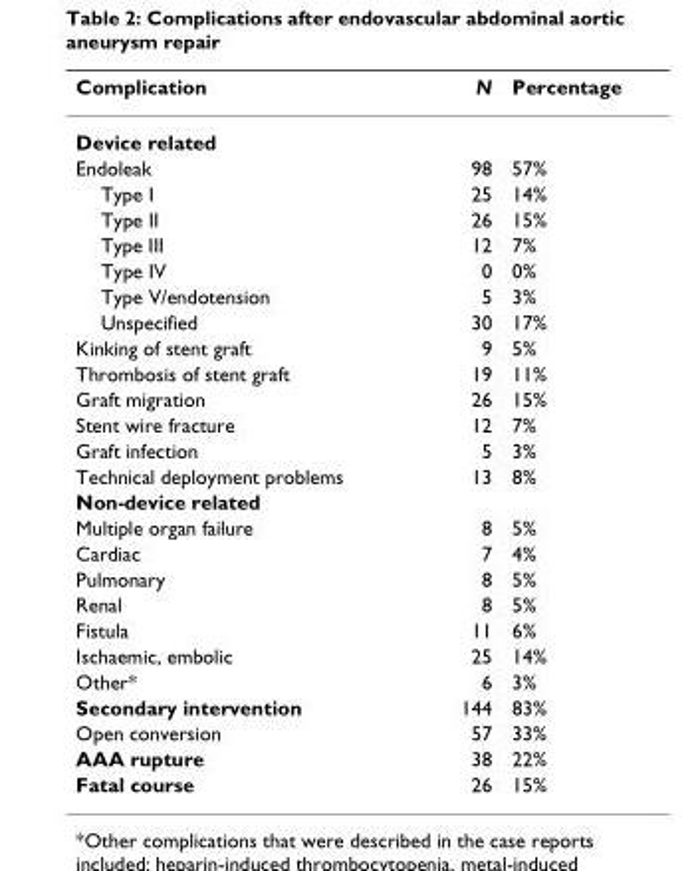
<table><thead><tr><td>Complication</td><td>N</td><td>Percentage</td></tr></thead><tbody><tr><td colspan="3">Device related</td></tr><tr><td>Endoleak</td><td>98</td><td>57%</td></tr><tr><td>Type I</td><td>25</td><td>14%</td></tr><tr><td>Type II</td><td>26</td><td>15%</td></tr><tr><td>Type III</td><td>12</td><td>7%</td></tr><tr><td>Type IV</td><td>0</td><td>0%</td></tr><tr><td>Type V/endotension</td><td>5</td><td>3%</td></tr><tr><td>Unspecified</td><td>30</td><td>17%</td></tr><tr><td>Kinking of stent graft</td><td>9</td><td>5%</td></tr><tr><td>Thrombosis of stent graft</td><td>19</td><td>11%</td></tr><tr><td>Graft migration</td><td>26</td><td>15%</td></tr><tr><td>Stent wire fracture</td><td>12</td><td>7%</td></tr><tr><td>Graft infection</td><td>5</td><td>3%</td></tr><tr><td>Technical deployment problems</td><td>13</td><td>8%</td></tr><tr><td colspan="3">Non-device related</td></tr><tr><td>Multiple organ failure</td><td>8</td><td>5%</td></tr><tr><td>Cardiac</td><td>7</td><td>4%</td></tr><tr><td>Pulmonary</td><td>8</td><td>5%</td></tr><tr><td>Renal</td><td>8</td><td>5%</td></tr><tr><td>Fistula</td><td>11</td><td>6%</td></tr><tr><td>Ischaemic, embolic</td><td>25</td><td>14%</td></tr><tr><td>Other*</td><td>6</td><td>3%</td></tr><tr><td>Secondary intervention</td><td>144</td><td>83%</td></tr><tr><td>Open conversion</td><td>57</td><td>33%</td></tr><tr><td>AAA rupture</td><td>38</td><td>22%</td></tr><tr><td>Fatal course</td><td>26</td><td>15%</td></tr></tbody></table>